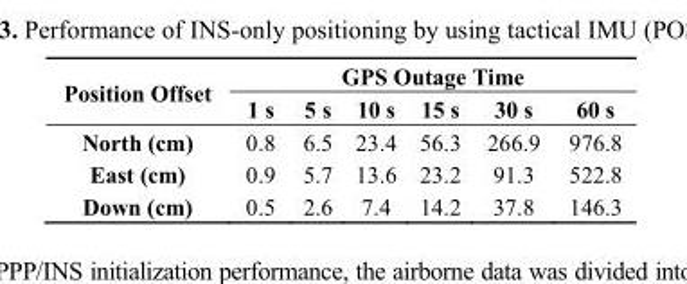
<table><thead><tr><td rowspan="2">Position Offset</td><td colspan="6">GPS Outage Time</td></tr><tr><td>1 s</td><td>5 s</td><td>10 s</td><td>15 s</td><td>30 s</td><td>60 s</td></tr></thead><tbody><tr><td>North (cm)</td><td>0.8</td><td>6.5</td><td>23.4</td><td>56.3</td><td>266.9</td><td>976.8</td></tr><tr><td>East (cm)</td><td>0.9</td><td>5.7</td><td>13.6</td><td>23.2</td><td>91.3</td><td>522.8</td></tr><tr><td>Down (cm)</td><td>0.5</td><td>2.6</td><td>7.4</td><td>14.2</td><td>37.8</td><td>146.3</td></tr></tbody></table>